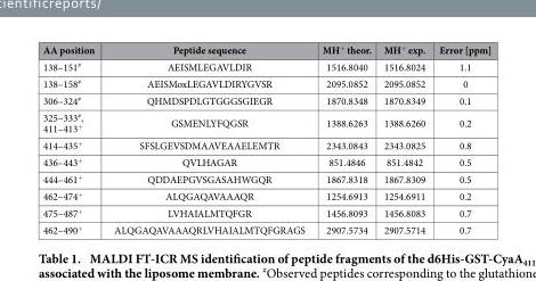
<table><thead><tr><td>AA position</td><td>Peptide sequence</td><td>MH<sup>+</sup> theor.</td><td>MH<sup>+</sup> exp.</td><td>Error [ppm]</td></tr></thead><tbody><tr><td>138–151#</td><td>AEISMLEGAVLDIR</td><td>1516.8040</td><td>1516.8024</td><td>1.1</td></tr><tr><td>138–158#</td><td>AEISMoxLEGAVLDIRYGVSR</td><td>2095.0852</td><td>2095.0852</td><td>0</td></tr><tr><td>306–324#</td><td>QHMDSPDLGTGGGSGIEGR</td><td>1870.8348</td><td>1870.8349</td><td>0.1</td></tr><tr><td>325–333#, 411–413+</td><td>GSMENLYFQGSR</td><td>1388.6263</td><td>1388.6260</td><td>0.2</td></tr><tr><td>414–435+</td><td>SFSLGEVSDMAAVEAAELEMTR</td><td>2343.0843</td><td>2343.0825</td><td>0.8</td></tr><tr><td>436–443+</td><td>QVLHAGAR</td><td>851.4846</td><td>851.4842</td><td>0.5</td></tr><tr><td>444–461+</td><td>QDDAEPGVSGASAHWGQR</td><td>1867.8318</td><td>1867.8309</td><td>0.5</td></tr><tr><td>462–474+</td><td>ALQGAQAVAAAQR</td><td>1254.6913</td><td>1254.6911</td><td>0.2</td></tr><tr><td>475–487+</td><td>LVHAIALMTQFGR</td><td>1456.8093</td><td>1456.8083</td><td>0.7</td></tr><tr><td>462–490+</td><td>ALQGAQAVAAAQRLVHAIALMTQFGRAGS</td><td>2907.5734</td><td>2907.5714</td><td>0.7</td></tr></tbody></table>